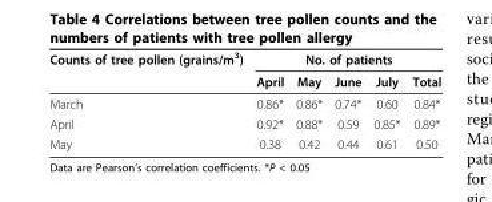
<table><tbody><tr><td rowspan="2">Counts of tree pollen (grains/m<sup>3</sup>)</td><td colspan="5">No. of patients</td></tr><tr><td>April</td><td>May</td><td>June</td><td>July</td><td>Total</td></tr><tr><td>March</td><td>0.86*</td><td>0.86*</td><td>0.74*</td><td>0.60</td><td>0.84*</td></tr><tr><td>April</td><td>0.92*</td><td>0.88*</td><td>0.59</td><td>0.85*</td><td>0.89*</td></tr><tr><td>May</td><td>0.38</td><td>0.42</td><td>0.44</td><td>0.61</td><td>0.50</td></tr></tbody></table>